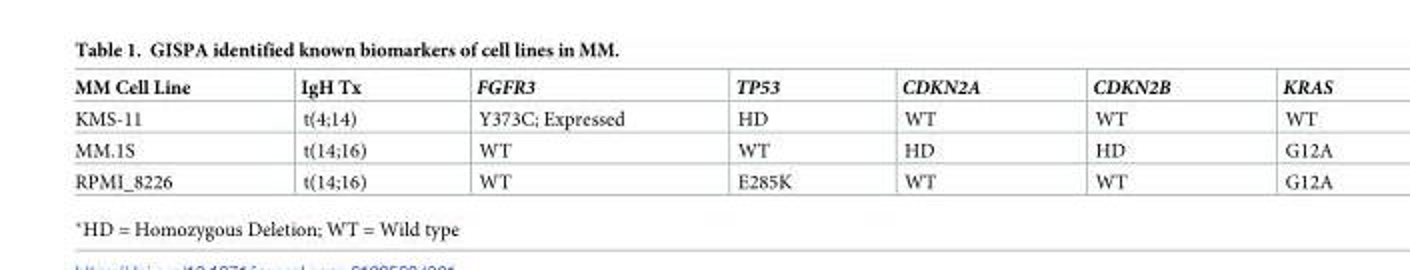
<table><thead><tr><td>MM Cell Line</td><td>IgH Tx</td><td>FGFR3</td><td>TP53</td><td>CDKN2A</td><td>CDKN2B</td><td>KRAS</td></tr></thead><tbody><tr><td>KMS-11</td><td>t(4;14)</td><td>Y373C; Expressed</td><td>HD</td><td>WT</td><td>WT</td><td>WT</td></tr><tr><td>MM.1S</td><td>t(14;16)</td><td>WT</td><td>WT</td><td>HD</td><td>HD</td><td>G12A</td></tr><tr><td>RPMI_8226</td><td>t(14;16)</td><td>WT</td><td>E285K</td><td>WT</td><td>WT</td><td>G12A</td></tr></tbody></table>